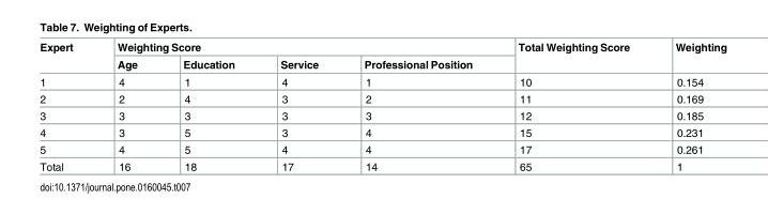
<table><thead><tr><td rowspan="2">Expert</td><td colspan="4">Weighting Score</td><td rowspan="2">Total Weighting Score</td><td rowspan="2">Weighting</td></tr><tr><td>Age</td><td>Education</td><td>Service</td><td>Professional Position</td></tr></thead><tbody><tr><td>1</td><td>4</td><td>1</td><td>4</td><td>1</td><td>10</td><td>0.154</td></tr><tr><td>2</td><td>2</td><td>4</td><td>3</td><td>2</td><td>11</td><td>0.169</td></tr><tr><td>3</td><td>3</td><td>3</td><td>3</td><td>3</td><td>12</td><td>0.185</td></tr><tr><td>4</td><td>3</td><td>5</td><td>3</td><td>4</td><td>15</td><td>0.231</td></tr><tr><td>5</td><td>4</td><td>5</td><td>4</td><td>4</td><td>17</td><td>0.261</td></tr><tr><td>Total</td><td>16</td><td>18</td><td>17</td><td>14</td><td>65</td><td>1</td></tr></tbody></table>